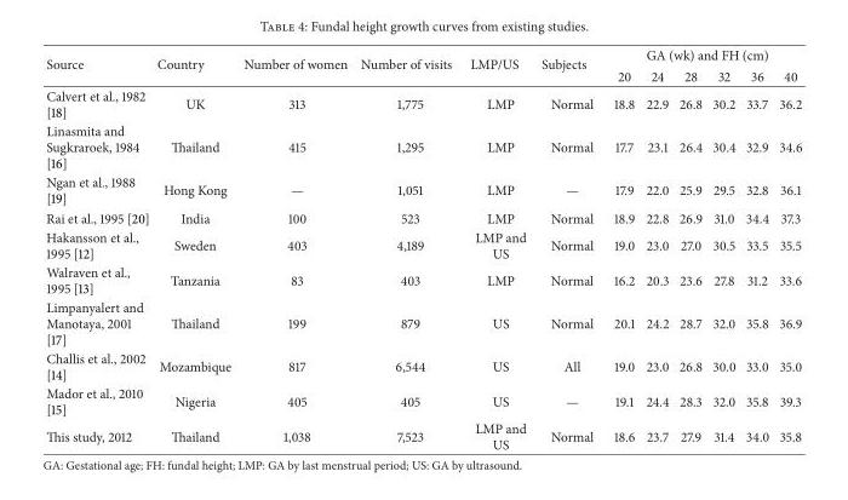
<table><thead><tr><td rowspan="2">Source</td><td rowspan="2">Country</td><td rowspan="2">Number of women</td><td rowspan="2">Number of visits</td><td rowspan="2">LMP/US</td><td rowspan="2">Subjects</td><td colspan="6">GA (wk) and FH (cm)</td></tr><tr><td>20</td><td>24</td><td>28</td><td>32</td><td>36</td><td>40</td></tr></thead><tbody><tr><td>Calvert et al., 1982 [18]</td><td>UK</td><td>313</td><td>1,775</td><td>LMP</td><td>Normal</td><td>18.8</td><td>22.9</td><td>26.8</td><td>30.2</td><td>33.7</td><td>36.2</td></tr><tr><td>Linasmita and Sugkraroek, 1984 [16]</td><td>Thailand</td><td>415</td><td>1,295</td><td>LMP</td><td>Normal</td><td>17.7</td><td>23.1</td><td>26.4</td><td>30.4</td><td>32.9</td><td>34.6</td></tr><tr><td>Ngan et al., 1988 [19]</td><td>Hong Kong</td><td>—</td><td>1,051</td><td>LMP</td><td>—</td><td>17.9</td><td>22.0</td><td>25.9</td><td>29.5</td><td>32.8</td><td>36.1</td></tr><tr><td>Rai et al., 1995 [20]</td><td>India</td><td>100</td><td>523</td><td>LMP</td><td>Normal</td><td>18.9</td><td>22.8</td><td>26.9</td><td>31.0</td><td>34.4</td><td>37.3</td></tr><tr><td>Hakansson et al., 1995 [12]</td><td>Sweden</td><td>403</td><td>4,189</td><td>LMP and US</td><td>Normal</td><td>19.0</td><td>23.0</td><td>27.0</td><td>30.5</td><td>33.5</td><td>35.5</td></tr><tr><td>Walraven et al., 1995 [13]</td><td>Tanzania</td><td>83</td><td>403</td><td>LMP</td><td>Normal</td><td>16.2</td><td>20.3</td><td>23.6</td><td>27.8</td><td>31.2</td><td>33.6</td></tr><tr><td>Limpanyalert and Manotaya, 2001 [17]</td><td>Thailand</td><td>199</td><td>879</td><td>US</td><td>Normal</td><td>20.1</td><td>24.2</td><td>28.7</td><td>32.0</td><td>35.8</td><td>36.9</td></tr><tr><td>Challis et al., 2002 [14]</td><td>Mozambique</td><td>817</td><td>6,544</td><td>US</td><td>All</td><td>19.0</td><td>23.0</td><td>26.8</td><td>30.0</td><td>33.0</td><td>35.0</td></tr><tr><td>Mador et al., 2010 [15]</td><td>Nigeria</td><td>405</td><td>405</td><td>US</td><td>—</td><td>19.1</td><td>24.4</td><td>28.3</td><td>32.0</td><td>35.8</td><td>39.3</td></tr><tr><td>This study, 2012</td><td>Thailand</td><td>1,038</td><td>7,523</td><td>LMP and US</td><td>Normal</td><td>18.6</td><td>23.7</td><td>27.9</td><td>31.4</td><td>34.0</td><td>35.8</td></tr></tbody></table>